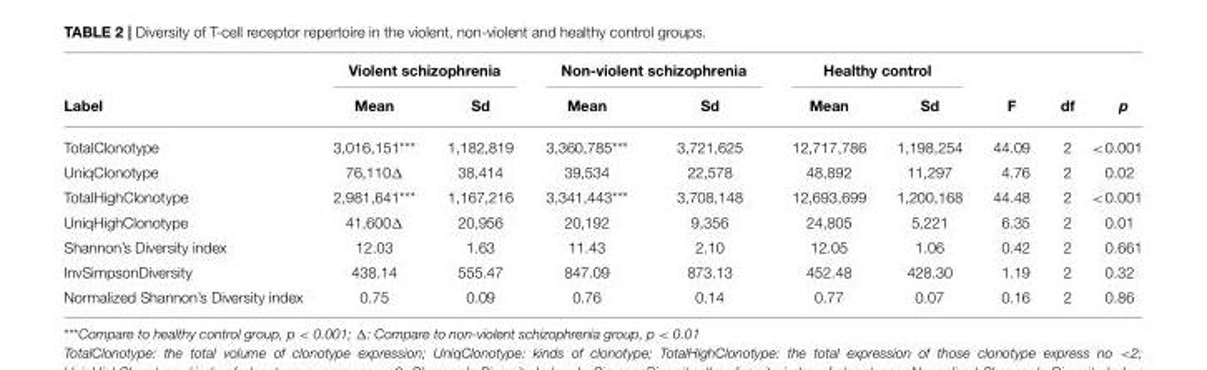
<table><thead><tr><td rowspan="2">Label</td><td colspan="2">Violent schizophrenia</td><td colspan="2">Non-violent schizophrenia</td><td colspan="2">Healthy control</td><td rowspan="2">F</td><td rowspan="2">df</td><td rowspan="2">p</td></tr><tr><td>Mean</td><td>Sd</td><td>Mean</td><td>Sd</td><td>Mean</td><td>Sd</td></tr></thead><tbody><tr><td>TotalClonotype</td><td>3,016,151***</td><td>1,182,819</td><td>3,360,785***</td><td>3,721,625</td><td>12,717,786</td><td>1,198,254</td><td>44.09</td><td>2</td><td>&lt;0.001</td></tr><tr><td>UniqClonotype</td><td>76,110Δ</td><td>38,414</td><td>39,534</td><td>22,578</td><td>48,892</td><td>11,297</td><td>4.76</td><td>2</td><td>0.02</td></tr><tr><td>TotalHighClonotype</td><td>2,981,641***</td><td>1,167,216</td><td>3,341,443***</td><td>3,708,148</td><td>12,693,699</td><td>1,200,168</td><td>44.48</td><td>2</td><td>&lt;0.001</td></tr><tr><td>UniqHighClonotype</td><td>41,600Δ</td><td>20,956</td><td>20,192</td><td>9,356</td><td>24,805</td><td>5,221</td><td>6.35</td><td>2</td><td>0.01</td></tr><tr><td>Shannon’s Diversity index</td><td>12.03</td><td>1.63</td><td>11.43</td><td>2.10</td><td>12.05</td><td>1.06</td><td>0.42</td><td>2</td><td>0.661</td></tr><tr><td>InvSimpsonDiversity</td><td>438.14</td><td>555.47</td><td>847.09</td><td>873.13</td><td>452.48</td><td>428.30</td><td>1.19</td><td>2</td><td>0.32</td></tr><tr><td>Normalized Shannon’s Diversity index</td><td>0.75</td><td>0.09</td><td>0.76</td><td>0.14</td><td>0.77</td><td>0.07</td><td>0.16</td><td>2</td><td>0.86</td></tr></tbody></table>